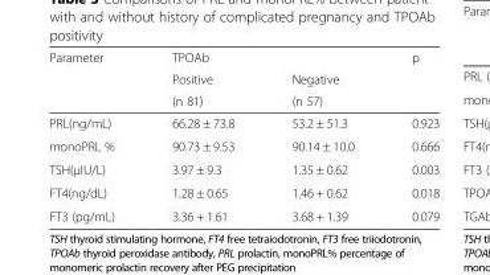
<table><thead><tr><td rowspan="3">Parameter</td><td colspan="2">TPOAb</td><td rowspan="3">p</td></tr><tr><td rowspan="2">Positive (n 81)</td><td rowspan="2">Negative (n 57)</td></tr><tr></tr></thead><tbody><tr><td>PRL(ng/mL)</td><td>66.28 ± 73.8</td><td>53.2 ± 51.3</td><td>0.923</td></tr><tr><td>monoPRL %</td><td>90.73 ± 9.53</td><td>90.14 ± 10.0</td><td>0.666</td></tr><tr><td>TSH(μIU/L)</td><td>3.97 ± 9.3</td><td>1.35 ± 0.62</td><td>0.003</td></tr><tr><td>FT4(ng/dL)</td><td>1.28 ± 0.65</td><td>1.46 + 0.62</td><td>0.018</td></tr><tr><td>FT3 (pg/mL)</td><td>3.36 + 1.61</td><td>3.68 + 1.39</td><td>0.079</td></tr></tbody></table>